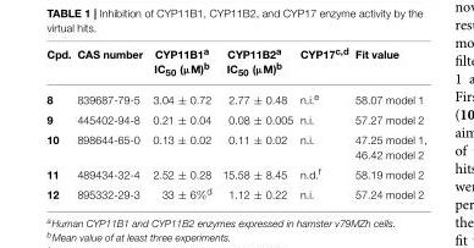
<table><thead><tr><td>Cpd.</td><td>CAS number</td><td>CYP11B1<sup>a</sup> IC<sub>50</sub> (µM)<sup>b</sup></td><td>CYP11B2<sup>a</sup> IC<sub>50</sub> (µM)<sup>b</sup></td><td>CYP17<sup>c,d</sup></td><td>Fit value</td></tr></thead><tbody><tr><td>8</td><td>839687-79-5</td><td>3.04 ± 0.72</td><td>2.77 ± 0.48</td><td>n.i.<sup>e</sup></td><td>58.07 model 1</td></tr><tr><td>9</td><td>445402-94-8</td><td>0.21 ± 0.04</td><td>0.08 ± 0.005</td><td>n.i.</td><td>57.27 model 2</td></tr><tr><td>10</td><td>898644-65-0</td><td>0.13 ± 0.02</td><td>0.11 ± 0.02</td><td>n.i.</td><td>47.25 model 1, 46.42 model 2</td></tr><tr><td>11</td><td>489434-32-4</td><td>2.52 ± 0.28</td><td>15.58 ± 8.45</td><td>n.d.<sup>f</sup></td><td>58.19 model 2</td></tr><tr><td>12</td><td>895332-29-3</td><td>33 ± 6%<sup>d</sup></td><td>1.12 ± 0.22</td><td>n.i.</td><td>57.24 model 2</td></tr></tbody></table>